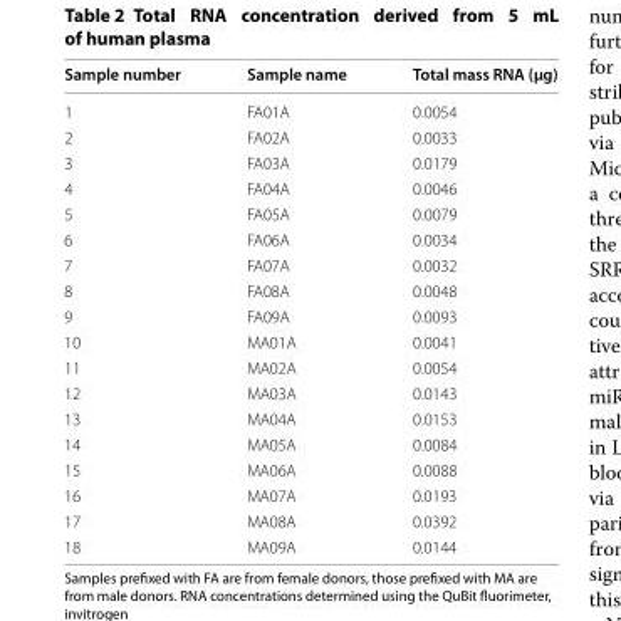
<table><thead><tr><td>Sample number</td><td>Sample name</td><td>Total mass RNA (µg)</td></tr></thead><tbody><tr><td>1</td><td>FA01A</td><td>0.0054</td></tr><tr><td>2</td><td>FA02A</td><td>0.0033</td></tr><tr><td>3</td><td>FA03A</td><td>0.0179</td></tr><tr><td>4</td><td>FA04A</td><td>0.0046</td></tr><tr><td>5</td><td>FA05A</td><td>0.0079</td></tr><tr><td>6</td><td>FA06A</td><td>0.0034</td></tr><tr><td>7</td><td>FA07A</td><td>0.0032</td></tr><tr><td>8</td><td>FA08A</td><td>0.0048</td></tr><tr><td>9</td><td>FA09A</td><td>0.0093</td></tr><tr><td>10</td><td>MA01A</td><td>0.0041</td></tr><tr><td>11</td><td>MA02A</td><td>0.0054</td></tr><tr><td>12</td><td>MA03A</td><td>0.0143</td></tr><tr><td>13</td><td>MA04A</td><td>0.0153</td></tr><tr><td>14</td><td>MA05A</td><td>0.0084</td></tr><tr><td>15</td><td>MA06A</td><td>0.0088</td></tr><tr><td>16</td><td>MA07A</td><td>0.0193</td></tr><tr><td>17</td><td>MA08A</td><td>0.0392</td></tr><tr><td>18</td><td>MA09A</td><td>0.0144</td></tr></tbody></table>